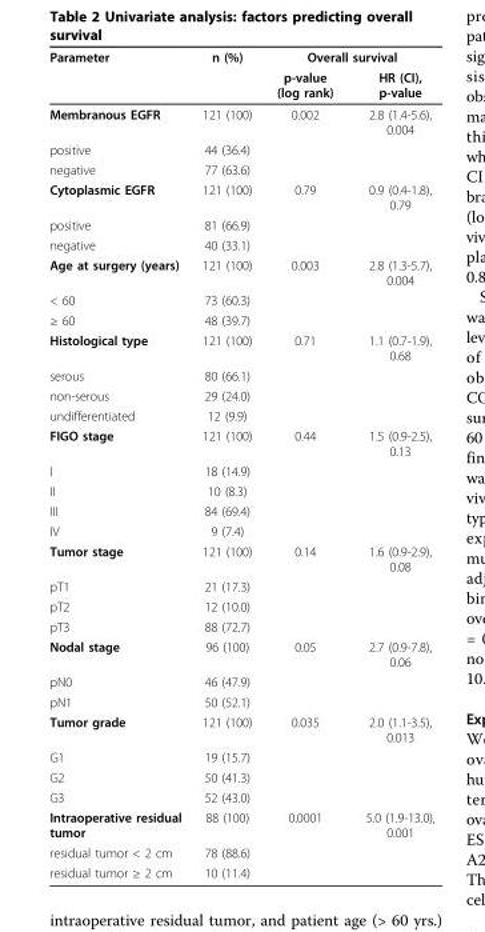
<table><thead><tr><td rowspan="2">Parameter</td><td rowspan="2">n (%)</td><td colspan="2">Overall survival</td></tr><tr><td>p-value (log rank)</td><td>HR (CI), p-value</td></tr></thead><tbody><tr><td>Membranous EGFR</td><td>121 (100)</td><td>0.002</td><td>2.8 (1.4-5.6), 0.004</td></tr><tr><td>positive</td><td>44 (36.4)</td><td></td><td></td></tr><tr><td>negative</td><td>77 (63.6)</td><td></td><td></td></tr><tr><td>Cytoplasmic EGFR</td><td>121 (100)</td><td>0.79</td><td>0.9 (0.4-1.8), 0.79</td></tr><tr><td>positive</td><td>81 (66.9)</td><td></td><td></td></tr><tr><td>negative</td><td>40 (33.1)</td><td></td><td></td></tr><tr><td>Age at surgery (years)</td><td>121 (100)</td><td>0.003</td><td>2.8 (1.3-5.7), 0.004</td></tr><tr><td>&lt; 60</td><td>73 (60.3)</td><td></td><td></td></tr><tr><td>≥ 60</td><td>48 (39.7)</td><td></td><td></td></tr><tr><td>Histological type</td><td>121 (100)</td><td>0.71</td><td>1.1 (0.7-1.9), 0.68</td></tr><tr><td>serous</td><td>80 (66.1)</td><td></td><td></td></tr><tr><td>non-serous</td><td>29 (24.0)</td><td></td><td></td></tr><tr><td>undifferentiated</td><td>12 (9.9)</td><td></td><td></td></tr><tr><td>FIGO stage</td><td>121 (100)</td><td>0.44</td><td>1.5 (0.9-2.5), 0.13</td></tr><tr><td>I</td><td>18 (14.9)</td><td></td><td></td></tr><tr><td>II</td><td>10 (8.3)</td><td></td><td></td></tr><tr><td>III</td><td>84 (69.4)</td><td></td><td></td></tr><tr><td>IV</td><td>9 (7.4)</td><td></td><td></td></tr><tr><td>Tumor stage</td><td>121 (100)</td><td>0.14</td><td>1.6 (0.9-2.9), 0.08</td></tr><tr><td>pT1</td><td>21 (17.3)</td><td></td><td></td></tr><tr><td>pT2</td><td>12 (10.0)</td><td></td><td></td></tr><tr><td>pT3</td><td>88 (72.7)</td><td></td><td></td></tr><tr><td>Nodal stage</td><td>96 (100)</td><td>0.05</td><td>2.7 (0.9-7.8), 0.06</td></tr><tr><td>pN0</td><td>46 (47.9)</td><td></td><td></td></tr><tr><td>pN1</td><td>50 (52.1)</td><td></td><td></td></tr><tr><td>Tumor grade</td><td>121 (100)</td><td>0.035</td><td>2.0 (1.1-3.5), 0.013</td></tr><tr><td>G1</td><td>19 (15.7)</td><td></td><td></td></tr><tr><td>G2</td><td>50 (41.3)</td><td></td><td></td></tr><tr><td>G3</td><td>52 (43.0)</td><td></td><td></td></tr><tr><td>Intraoperative residual tumor</td><td>88 (100)</td><td>0.0001</td><td>5.0 (1.9-13.0), 0.001</td></tr><tr><td>residual tumor &lt; 2 cm</td><td>78 (88.6)</td><td></td><td></td></tr><tr><td>residual tumor ≥ 2 cm</td><td>10 (11.4)</td><td></td><td></td></tr></tbody></table>